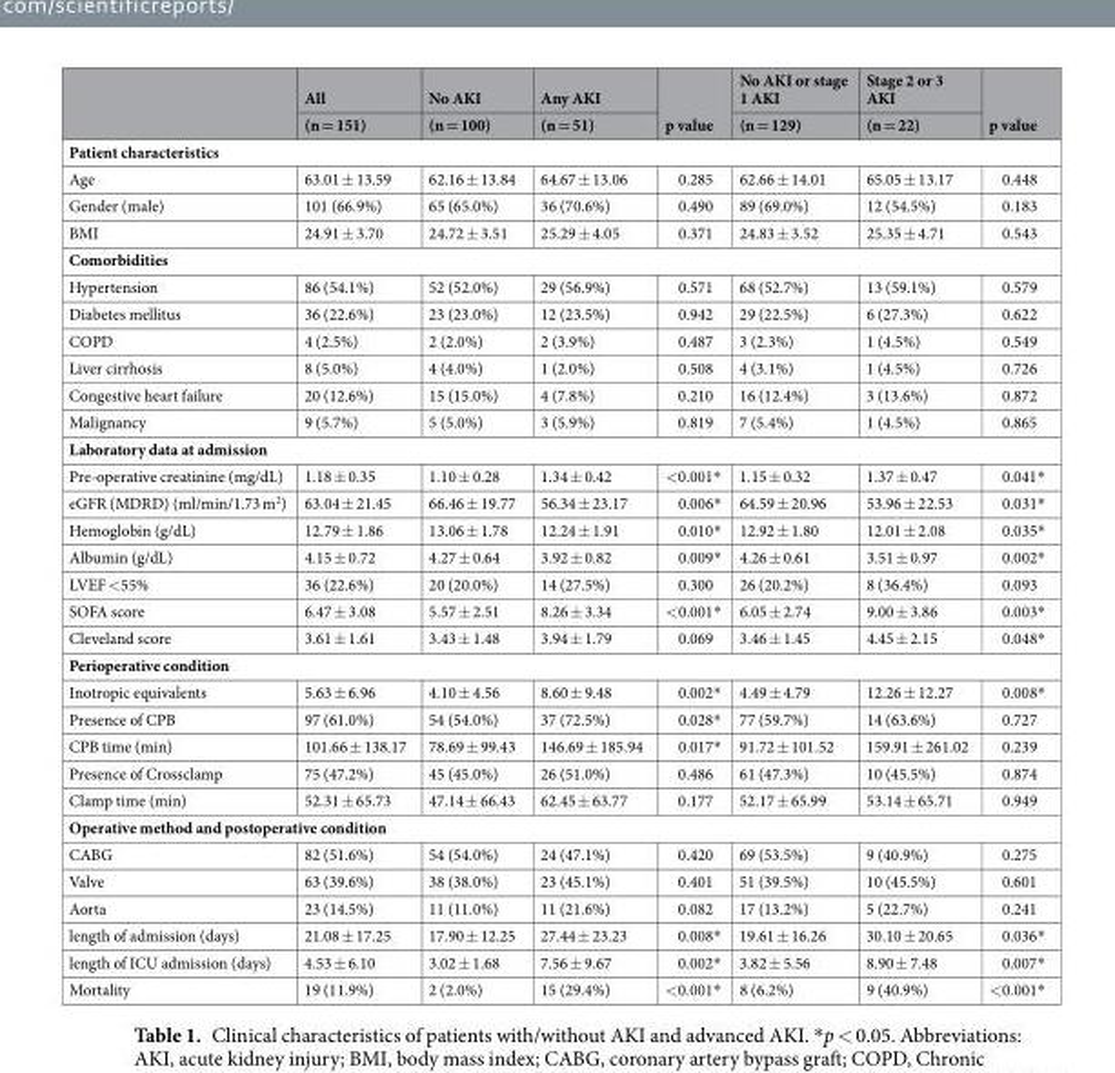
<table><thead><tr><td rowspan="2"></td><td rowspan="2">All (n = 151)</td><td rowspan="2">No AKI (n = 100)</td><td rowspan="2">Any AKI (n = 51)</td><td rowspan="2">p value</td><td rowspan="2">No AKI or stage 1 AKI (n = 129)</td><td rowspan="2">Stage 2 or 3 AKI (n = 22)</td><td rowspan="2">p value</td></tr><tr></tr></thead><tbody><tr><td colspan="8">Patient characteristics</td></tr><tr><td>Age</td><td>63.01 ± 13.59</td><td>62.16 ± 13.84</td><td>64.67 ± 13.06</td><td>0.285</td><td>62.66 ± 14.01</td><td>65.05 ± 13.17</td><td>0.448</td></tr><tr><td>Gender (male)</td><td>101 (66.9%)</td><td>65 (65.0%)</td><td>36 (70.6%)</td><td>0.490</td><td>89 (69.0%)</td><td>12 (54.5%)</td><td>0.183</td></tr><tr><td>BMI</td><td>24.91 ± 3.70</td><td>24.72 ± 3.51</td><td>25.29 ± 4.05</td><td>0.371</td><td>24.83 ± 3.52</td><td>25.35 ± 4.71</td><td>0.543</td></tr><tr><td colspan="8">Comorbidities</td></tr><tr><td>Hypertension</td><td>86 (54.1%)</td><td>52 (52.0%)</td><td>29 (56.9%)</td><td>0.571</td><td>68 (52.7%)</td><td>13 (59.1%)</td><td>0.579</td></tr><tr><td>Diabetes mellitus</td><td>36 (22.6%)</td><td>23 (23.0%)</td><td>12 (23.5%)</td><td>0.942</td><td>29 (22.5%)</td><td>6 (27.3%)</td><td>0.622</td></tr><tr><td>COPD</td><td>4 (2.5%)</td><td>2 (2.0%)</td><td>2 (3.9%)</td><td>0.487</td><td>3 (2.3%)</td><td>1 (4.5%)</td><td>0.549</td></tr><tr><td>Liver cirrhosis</td><td>8 (5.0%)</td><td>4 (4.0%)</td><td>1 (2.0%)</td><td>0.508</td><td>4 (3.1%)</td><td>1 (4.5%)</td><td>0.726</td></tr><tr><td>Congestive heart failure</td><td>20 (12.6%)</td><td>15 (15.0%)</td><td>4 (7.8%)</td><td>0.210</td><td>16 (12.4%)</td><td>3 (13.6%)</td><td>0.872</td></tr><tr><td>Malignancy</td><td>9 (5.7%)</td><td>5 (5.0%)</td><td>3 (5.9%)</td><td>0.819</td><td>7 (5.4%)</td><td>1 (4.5%)</td><td>0.865</td></tr><tr><td colspan="8">Laboratory data at admission</td></tr><tr><td>Pre-operative creatinine (mg/dL)</td><td>1.18 ± 0.35</td><td>1.10 ± 0.28</td><td>1.34 ± 0.42</td><td>&lt;0.001*</td><td>1.15 ± 0.32</td><td>1.37 ± 0.47</td><td>0.041*</td></tr><tr><td>eGFR (MDRD) (ml/min/1.73 m<sup>2</sup>)</td><td>63.04 ± 21.45</td><td>66.46 ± 19.77</td><td>56.34 ± 23.17</td><td>0.006*</td><td>64.59 ± 20.96</td><td>53.96 ± 22.53</td><td>0.031*</td></tr><tr><td>Hemoglobin (g/dL)</td><td>12.79 ± 1.86</td><td>13.06 ± 1.78</td><td>12.24 ± 1.91</td><td>0.010*</td><td>12.92 ± 1.80</td><td>12.01 ± 2.08</td><td>0.035*</td></tr><tr><td>Albumin (g/dL)</td><td>4.15 ± 0.72</td><td>4.27 ± 0.64</td><td>3.92 ± 0.82</td><td>0.009*</td><td>4.26 ± 0.61</td><td>3.51 ± 0.97</td><td>0.002*</td></tr><tr><td>LVEF &lt;55%</td><td>36 (22.6%)</td><td>20 (20.0%)</td><td>14 (27.5%)</td><td>0.300</td><td>26 (20.2%)</td><td>8 (36.4%)</td><td>0.093</td></tr><tr><td>SOFA score</td><td>6.47 ± 3.08</td><td>5.57 ± 2.51</td><td>8.26 ± 3.34</td><td>&lt;0.001*</td><td>6.05 ± 2.74</td><td>9.00 ± 3.86</td><td>0.003*</td></tr><tr><td>Cleveland score</td><td>3.61 ± 1.61</td><td>3.43 ± 1.48</td><td>3.94 ± 1.79</td><td>0.069</td><td>3.46 ± 1.45</td><td>4.45 ± 2.15</td><td>0.048*</td></tr><tr><td colspan="8">Perioperative condition</td></tr><tr><td>Inotropic equivalents</td><td>5.63 ± 6.96</td><td>4.10 ± 4.56</td><td>8.60 ± 9.48</td><td>0.002*</td><td>4.49 ± 4.79</td><td>12.26 ± 12.27</td><td>0.008*</td></tr><tr><td>Presence of CPB</td><td>97 (61.0%)</td><td>54 (54.0%)</td><td>37 (72.5%)</td><td>0.028*</td><td>77 (59.7%)</td><td>14 (63.6%)</td><td>0.727</td></tr><tr><td>CPB time (min)</td><td>101.66 ± 138.17</td><td>78.69 ± 99.43</td><td>146.69 ± 185.94</td><td>0.017*</td><td>91.72 ± 101.52</td><td>159.91 ± 261.02</td><td>0.239</td></tr><tr><td>Presence of Crossclamp</td><td>75 (47.2%)</td><td>45 (45.0%)</td><td>26 (51.0%)</td><td>0.486</td><td>61 (47.3%)</td><td>10 (45.5%)</td><td>0.874</td></tr><tr><td>Clamp time (min)</td><td>52.31 ± 65.73</td><td>47.14 ± 66.43</td><td>62.45 ± 63.77</td><td>0.177</td><td>52.17 ± 65.99</td><td>53.14 ± 65.71</td><td>0.949</td></tr><tr><td colspan="8">Operative method and postoperative condition</td></tr><tr><td>CABG</td><td>82 (51.6%)</td><td>54 (54.0%)</td><td>24 (47.1%)</td><td>0.420</td><td>69 (53.5%)</td><td>9 (40.9%)</td><td>0.275</td></tr><tr><td>Valve</td><td>63 (39.6%)</td><td>38 (38.0%)</td><td>23 (45.1%)</td><td>0.401</td><td>51 (39.5%)</td><td>10 (45.5%)</td><td>0.601</td></tr><tr><td>Aorta</td><td>23 (14.5%)</td><td>11 (11.0%)</td><td>11 (21.6%)</td><td>0.082</td><td>17 (13.2%)</td><td>5 (22.7%)</td><td>0.241</td></tr><tr><td>length of admission (days)</td><td>21.08 ± 17.25</td><td>17.90 ± 12.25</td><td>27.44 ± 23.23</td><td>0.008*</td><td>19.61 ± 16.26</td><td>30.10 ± 20.65</td><td>0.036*</td></tr><tr><td>length of ICU admission (days)</td><td>4.53 ± 6.10</td><td>3.02 ± 1.68</td><td>7.56 ± 9.67</td><td>0.002*</td><td>3.82 ± 5.56</td><td>8.90 ± 7.48</td><td>0.007*</td></tr><tr><td>Mortality</td><td>19 (11.9%)</td><td>2 (2.0%)</td><td>15 (29.4%)</td><td>&lt;0.001*</td><td>8 (6.2%)</td><td>9 (40.9%)</td><td>&lt;0.001*</td></tr></tbody></table>